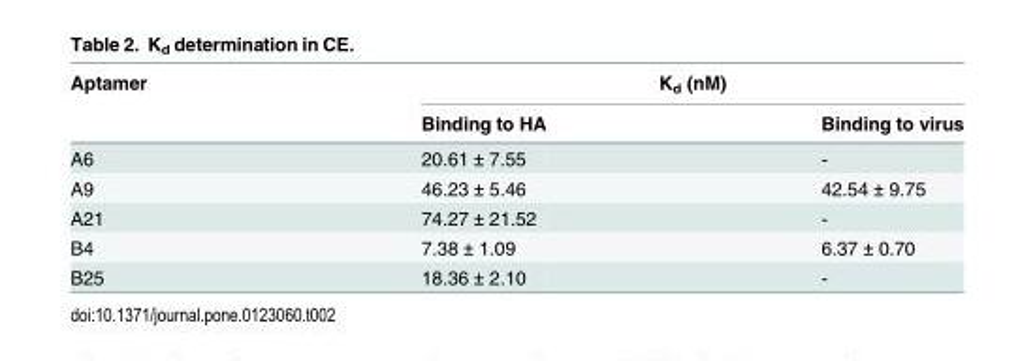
<table><thead><tr><td rowspan="2">Aptamer</td><td colspan="2">K<sub>d</sub> (nM)</td></tr><tr><td>Binding to HA</td><td>Binding to virus</td></tr></thead><tbody><tr><td>A6</td><td>20.61 ± 7.55</td><td>-</td></tr><tr><td>A9</td><td>46.23 ± 5.46</td><td>42.54 ± 9.75</td></tr><tr><td>A21</td><td>74.27 ± 21.52</td><td>-</td></tr><tr><td>B4</td><td>7.38 ± 1.09</td><td>6.37 ± 0.70</td></tr><tr><td>B25</td><td>18.36 ± 2.10</td><td>-</td></tr></tbody></table>